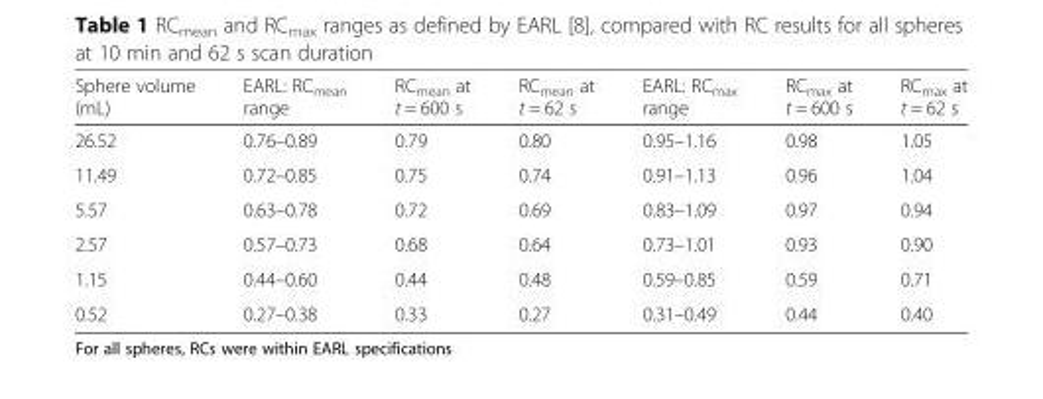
<table><thead><tr><td>Sphere volume (mL)</td><td>EARL: RC<sub>mean</sub> range</td><td>RC<sub>mean</sub> at t = 600 s</td><td>RC<sub>mean</sub> at t = 62 s</td><td>EARL: RC<sub>max</sub> range</td><td>RC<sub>max</sub> at t = 600 s</td><td>RC<sub>max</sub> at t = 62 s</td></tr></thead><tbody><tr><td>26.52</td><td>0.76–0.89</td><td>0.79</td><td>0.80</td><td>0.95–1.16</td><td>0.98</td><td>1.05</td></tr><tr><td>11.49</td><td>0.72–0.85</td><td>0.75</td><td>0.74</td><td>0.91–1.13</td><td>0.96</td><td>1.04</td></tr><tr><td>5.57</td><td>0.63–0.78</td><td>0.72</td><td>0.69</td><td>0.83–1.09</td><td>0.97</td><td>0.94</td></tr><tr><td>2.57</td><td>0.57–0.73</td><td>0.68</td><td>0.64</td><td>0.73–1.01</td><td>0.93</td><td>0.90</td></tr><tr><td>1.15</td><td>0.44–0.60</td><td>0.44</td><td>0.48</td><td>0.59–0.85</td><td>0.59</td><td>0.71</td></tr><tr><td>0.52</td><td>0.27–0.38</td><td>0.33</td><td>0.27</td><td>0.31–0.49</td><td>0.44</td><td>0.40</td></tr></tbody></table>